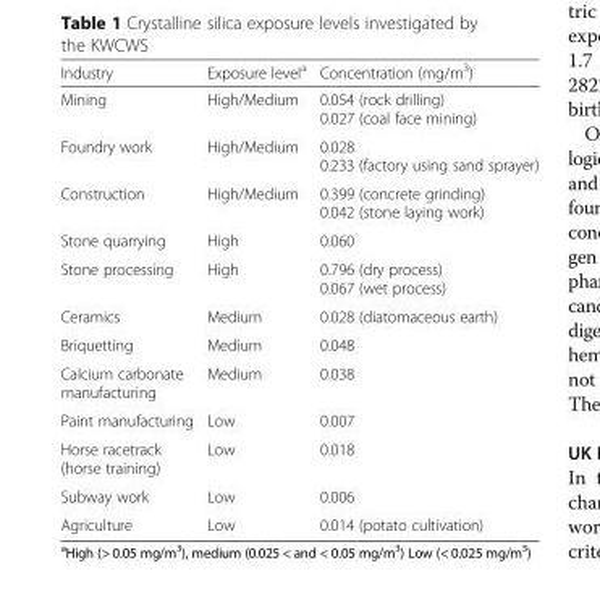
<table><thead><tr><td>Industry</td><td>Exposure level<sup>a</sup></td><td>Concentration (mg/m<sup>3</sup>)</td></tr></thead><tbody><tr><td>Mining</td><td>High/Medium</td><td>0.054 (rock drilling) 0.027 (coal face mining)</td></tr><tr><td>Foundry work</td><td>High/Medium</td><td>0.028 0.233 (factory using sand sprayer)</td></tr><tr><td>Construction</td><td>High/Medium</td><td>0.399 (concrete grinding) 0.042 (stone laying work)</td></tr><tr><td>Stone quarrying</td><td>High</td><td>0.060</td></tr><tr><td>Stone processing</td><td>High</td><td>0.796 (dry process) 0.067 (wet process)</td></tr><tr><td>Ceramics</td><td>Medium</td><td>0.028 (diatomaceous earth)</td></tr><tr><td>Briquetting</td><td>Medium</td><td>0.048</td></tr><tr><td>Calcium carbonate manufacturing</td><td>Medium</td><td>0.038</td></tr><tr><td>Paint manufacturing</td><td>Low</td><td>0.007</td></tr><tr><td>Horse racetrack (horse training)</td><td>Low</td><td>0.018</td></tr><tr><td>Subway work</td><td>Low</td><td>0.006</td></tr><tr><td>Agriculture</td><td>Low</td><td>0.014 (potato cultivation)</td></tr></tbody></table>